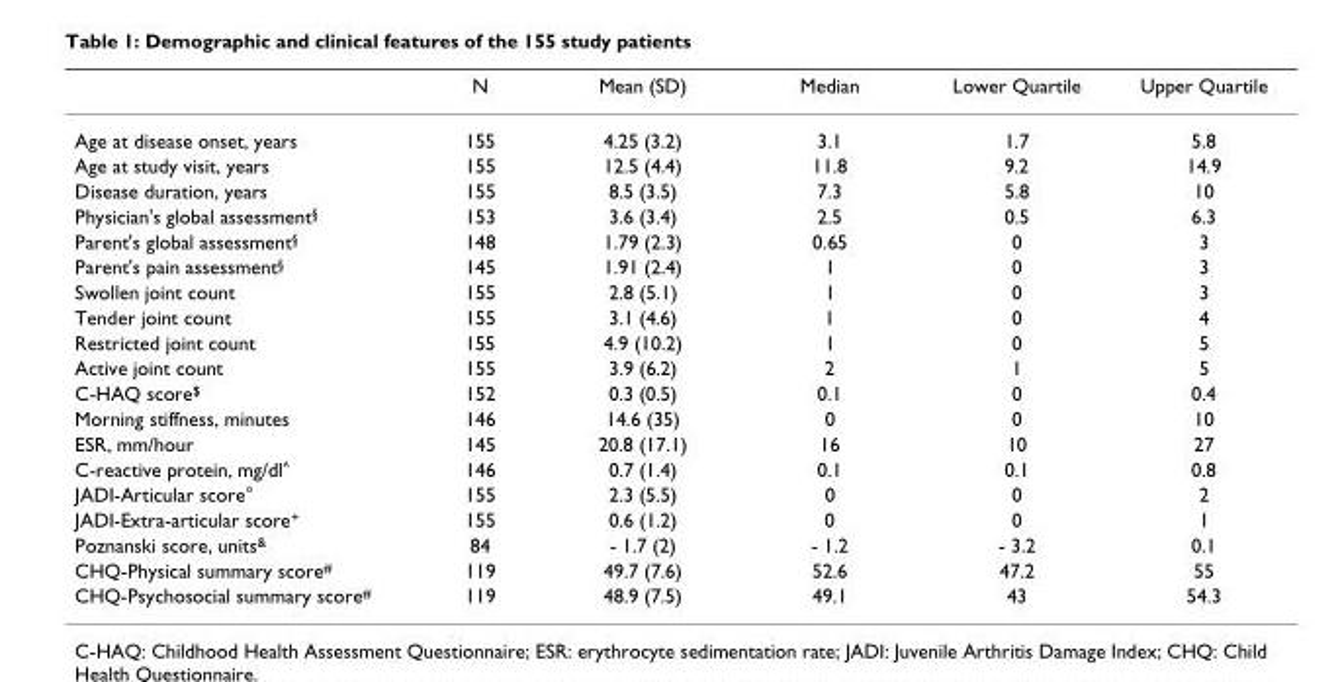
<table><thead><tr><td></td><td>N</td><td>Mean (SD)</td><td>Median</td><td>Lower Quartile</td><td>Upper Quartile</td></tr></thead><tbody><tr><td>Age at disease onset, years</td><td>155</td><td>4.25 (3.2)</td><td>3.1</td><td>1.7</td><td>5.8</td></tr><tr><td>Age at study visit, years</td><td>155</td><td>12.5 (4.4)</td><td>11.8</td><td>9.2</td><td>14.9</td></tr><tr><td>Disease duration, years</td><td>155</td><td>8.5 (3.5)</td><td>7.3</td><td>5.8</td><td>10</td></tr><tr><td>Physician&#x27;s global assessment<sup>§</sup></td><td>153</td><td>3.6 (3.4)</td><td>2.5</td><td>0.5</td><td>6.3</td></tr><tr><td>Parent&#x27;s global assessment<sup>§</sup></td><td>148</td><td>1.79 (2.3)</td><td>0.65</td><td>0</td><td>3</td></tr><tr><td>Parent&#x27;s pain assessment<sup>§</sup></td><td>145</td><td>1.91 (2.4)</td><td>1</td><td>0</td><td>3</td></tr><tr><td>Swollen joint count</td><td>155</td><td>2.8 (5.1)</td><td>1</td><td>0</td><td>3</td></tr><tr><td>Tender joint count</td><td>155</td><td>3.1 (4.6)</td><td>1</td><td>0</td><td>4</td></tr><tr><td>Restricted joint count</td><td>155</td><td>4.9 (10.2)</td><td>1</td><td>0</td><td>5</td></tr><tr><td>Active joint count</td><td>155</td><td>3.9 (6.2)</td><td>2</td><td>1</td><td>5</td></tr><tr><td>C-HAQ score<sup>$</sup></td><td>152</td><td>0.3 (0.5)</td><td>0.1</td><td>0</td><td>0.4</td></tr><tr><td>Morning stiffness, minutes</td><td>146</td><td>14.6 (35)</td><td>0</td><td>0</td><td>10</td></tr><tr><td>ESR, mm/hour</td><td>145</td><td>20.8 (17.1)</td><td>16</td><td>10</td><td>27</td></tr><tr><td>C-reactive protein, mg/dl<sup>^</sup></td><td>146</td><td>0.7 (1.4)</td><td>0.1</td><td>0.1</td><td>0.8</td></tr><tr><td>JADI-Articular score°</td><td>155</td><td>2.3 (5.5)</td><td>0</td><td>0</td><td>2</td></tr><tr><td>JADI-Extra-articular score<sup>+</sup></td><td>155</td><td>0.6 (1.2)</td><td>0</td><td>0</td><td>1</td></tr><tr><td>Poznanski score, units<sup>&amp;</sup></td><td>84</td><td>- 1.7 (2)</td><td>- 1.2</td><td>- 3.2</td><td>0.1</td></tr><tr><td>CHQ-Physical summary score<sup>#</sup></td><td>119</td><td>49.7 (7.6)</td><td>52.6</td><td>47.2</td><td>55</td></tr><tr><td>CHQ-Psychosocial summary score<sup>#</sup></td><td>119</td><td>48.9 (7.5)</td><td>49.1</td><td>43</td><td>54.3</td></tr></tbody></table>